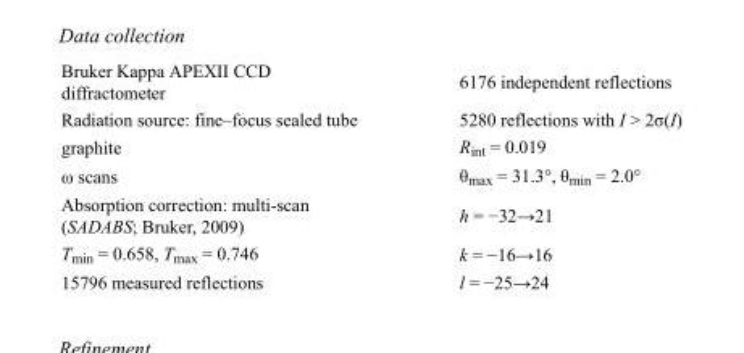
<table><tbody><tr><td>Bruker Kappa APEXII CCD diffractometer</td><td>6176 independent reflections</td></tr><tr><td>Radiation source: fine–focus sealed tube</td><td>5280 reflections with I &gt; 2σ(I)</td></tr><tr><td>graphite</td><td>R<sub>int</sub> = 0.019</td></tr><tr><td>ω scans</td><td>θ<sub>max</sub> = 31.3°, θ<sub>min</sub> = 2.0°</td></tr><tr><td>Absorption correction: multi-scan (SADABS; Bruker, 2009)</td><td>h = −32→21</td></tr><tr><td>T<sub>min</sub> = 0.658, T<sub>max</sub> = 0.746</td><td>k = −16→16</td></tr><tr><td>15796 measured reflections</td><td>l = −25→24</td></tr></tbody></table>